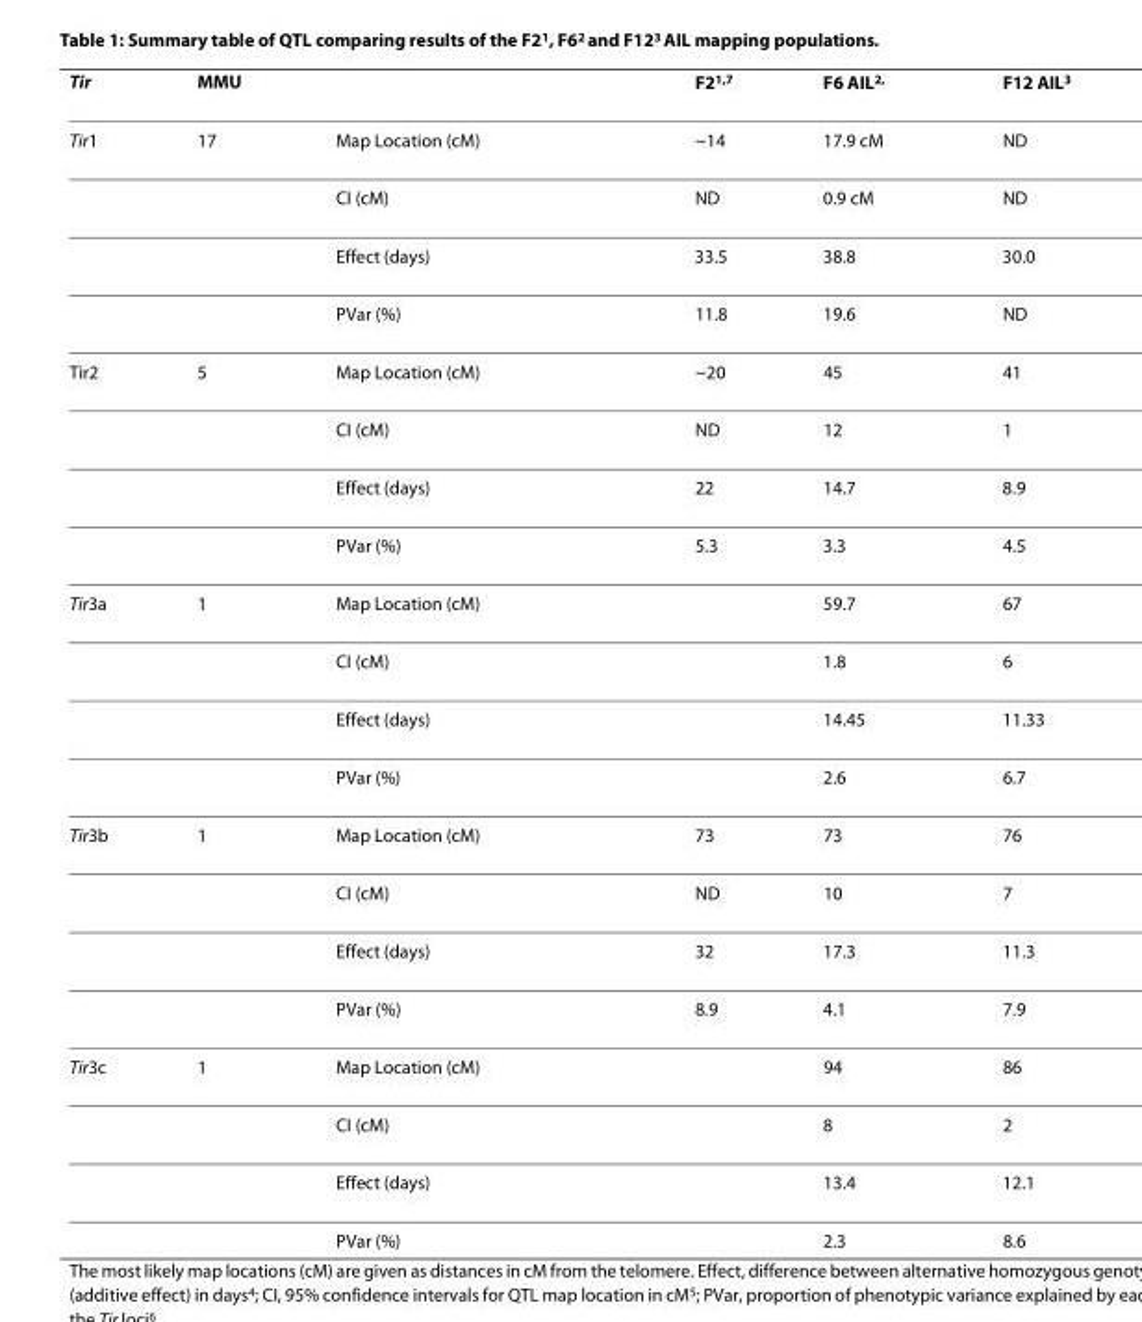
<table><thead><tr><td>Tir</td><td>MMU</td><td></td><td>F2<sup>1,7</sup></td><td>F6 AIL<sup>2,</sup></td><td>F12 AIL<sup>3</sup></td></tr></thead><tbody><tr><td rowspan="4">Tir1</td><td>17</td><td>Map Location (cM)</td><td>~14</td><td>17.9 cM</td><td>ND</td></tr><tr><td></td><td>CI (cM)</td><td>ND</td><td>0.9 cM</td><td>ND</td></tr><tr><td></td><td>Effect (days)</td><td>33.5</td><td>38.8</td><td>30.0</td></tr><tr><td></td><td>PVar (%)</td><td>11.8</td><td>19.6</td><td>ND</td></tr><tr><td rowspan="4">Tir2</td><td>5</td><td>Map Location (cM)</td><td>~20</td><td>45</td><td>41</td></tr><tr><td></td><td>CI (cM)</td><td>ND</td><td>12</td><td>1</td></tr><tr><td></td><td>Effect (days)</td><td>22</td><td>14.7</td><td>8.9</td></tr><tr><td></td><td>PVar (%)</td><td>5.3</td><td>3.3</td><td>4.5</td></tr><tr><td rowspan="4">Tir3a</td><td>1</td><td>Map Location (cM)</td><td></td><td>59.7</td><td>67</td></tr><tr><td></td><td>CI (cM)</td><td></td><td>1.8</td><td>6</td></tr><tr><td></td><td>Effect (days)</td><td></td><td>14.45</td><td>11.33</td></tr><tr><td></td><td>PVar (%)</td><td></td><td>2.6</td><td>6.7</td></tr><tr><td rowspan="4">Tir3b</td><td>1</td><td>Map Location (cM)</td><td>73</td><td>73</td><td>76</td></tr><tr><td></td><td>CI (cM)</td><td>ND</td><td>10</td><td>7</td></tr><tr><td></td><td>Effect (days)</td><td>32</td><td>17.3</td><td>11.3</td></tr><tr><td></td><td>PVar (%)</td><td>8.9</td><td>4.1</td><td>7.9</td></tr><tr><td rowspan="4">Tir3c</td><td>1</td><td>Map Location (cM)</td><td></td><td>94</td><td>86</td></tr><tr><td></td><td>CI (cM)</td><td></td><td>8</td><td>2</td></tr><tr><td></td><td>Effect (days)</td><td></td><td>13.4</td><td>12.1</td></tr><tr><td></td><td>PVar (%)</td><td></td><td>2.3</td><td>8.6</td></tr></tbody></table>